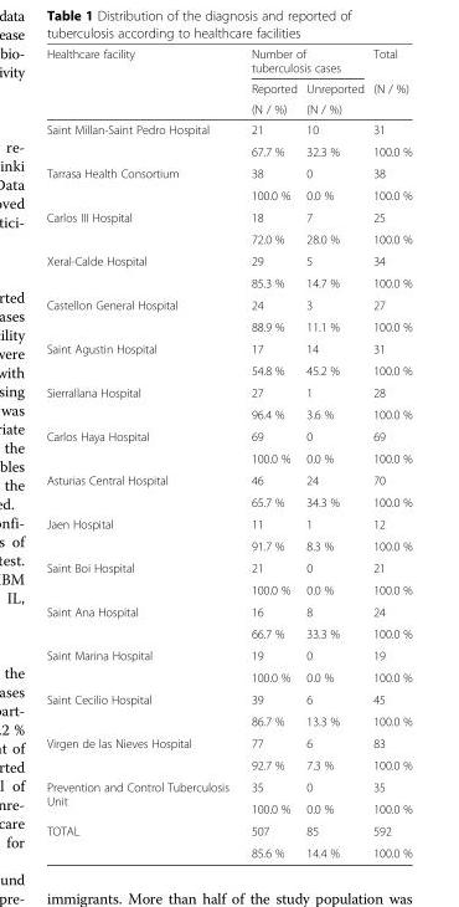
<table><thead><tr><td rowspan="3">Healthcare facility</td><td colspan="2">Number of tuberculosis cases</td><td rowspan="3">Total (N / %)</td></tr><tr><td rowspan="2">Reported (N / %)</td><td rowspan="2">Unreported (N / %)</td></tr><tr></tr></thead><tbody><tr><td rowspan="2">Saint Millan-Saint Pedro Hospital</td><td>21</td><td>10</td><td>31</td></tr><tr><td>67.7 %</td><td>32.3 %</td><td>100.0 %</td></tr><tr><td rowspan="2">Tarrasa Health Consortium</td><td>38</td><td>0</td><td>38</td></tr><tr><td>100.0 %</td><td>0.0 %</td><td>100.0 %</td></tr><tr><td rowspan="2">Carlos III Hospital</td><td>18</td><td>7</td><td>25</td></tr><tr><td>72.0 %</td><td>28.0 %</td><td>100.0 %</td></tr><tr><td rowspan="2">Xeral-Calde Hospital</td><td>29</td><td>5</td><td>34</td></tr><tr><td>85.3 %</td><td>14.7 %</td><td>100.0 %</td></tr><tr><td rowspan="2">Castellon General Hospital</td><td>24</td><td>3</td><td>27</td></tr><tr><td>88.9 %</td><td>11.1 %</td><td>100.0 %</td></tr><tr><td rowspan="2">Saint Agustin Hospital</td><td>17</td><td>14</td><td>31</td></tr><tr><td>54.8 %</td><td>45.2 %</td><td>100.0 %</td></tr><tr><td rowspan="2">Sierrallana Hospital</td><td>27</td><td>1</td><td>28</td></tr><tr><td>96.4 %</td><td>3.6 %</td><td>100.0 %</td></tr><tr><td rowspan="2">Carlos Haya Hospital</td><td>69</td><td>0</td><td>69</td></tr><tr><td>100.0 %</td><td>0.0 %</td><td>100.0 %</td></tr><tr><td rowspan="2">Asturias Central Hospital</td><td>46</td><td>24</td><td>70</td></tr><tr><td>65.7 %</td><td>34.3 %</td><td>100.0 %</td></tr><tr><td rowspan="2">Jaen Hospital</td><td>11</td><td>1</td><td>12</td></tr><tr><td>91.7 %</td><td>8.3 %</td><td>100.0 %</td></tr><tr><td rowspan="2">Saint Boi Hospital</td><td>21</td><td>0</td><td>21</td></tr><tr><td>100.0 %</td><td>0.0 %</td><td>100.0 %</td></tr><tr><td rowspan="2">Saint Ana Hospital</td><td>16</td><td>8</td><td>24</td></tr><tr><td>66.7 %</td><td>33.3 %</td><td>100.0 %</td></tr><tr><td rowspan="2">Saint Marina Hospital</td><td>19</td><td>0</td><td>19</td></tr><tr><td>100.0 %</td><td>0.0 %</td><td>100.0 %</td></tr><tr><td rowspan="2">Saint Cecilio Hospital</td><td>39</td><td>6</td><td>45</td></tr><tr><td>86.7 %</td><td>13.3 %</td><td>100.0 %</td></tr><tr><td rowspan="2">Virgen de las Nieves Hospital</td><td>77</td><td>6</td><td>83</td></tr><tr><td>92.7 %</td><td>7.3 %</td><td>100.0 %</td></tr><tr><td rowspan="2">Prevention and Control Tuberculosis Unit</td><td>35</td><td>0</td><td>35</td></tr><tr><td>100.0 %</td><td>0.0 %</td><td>100.0 %</td></tr><tr><td rowspan="2">TOTAL</td><td>507</td><td>85</td><td>592</td></tr><tr><td>85.6 %</td><td>14.4 %</td><td>100.0 %</td></tr></tbody></table>